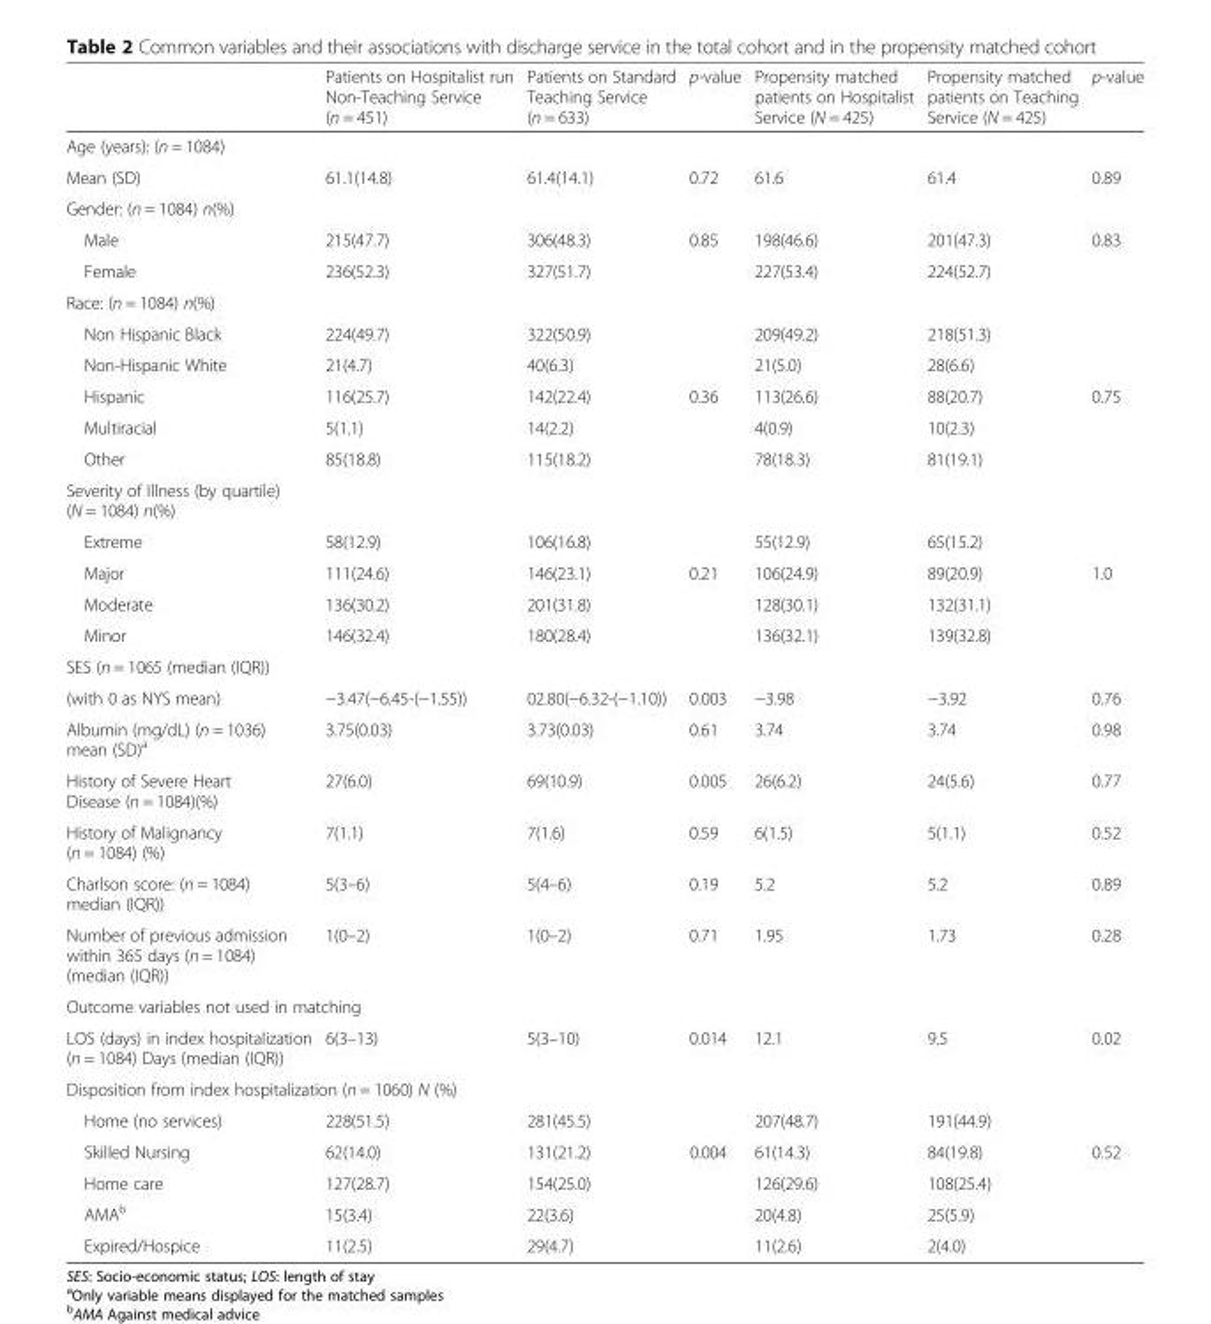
<table><thead><tr><td></td><td>Patients on Hospitalist run Non-Teaching Service (n = 451)</td><td>Patients on Standard Teaching Service (n = 633)</td><td>p-value</td><td>Propensity matched patients on Hospitalist Service (N = 425)</td><td>Propensity matched patients on Teaching Service (N = 425)</td><td>p-value</td></tr></thead><tbody><tr><td colspan="7">Age (years): (n = 1084)</td></tr><tr><td>Mean (SD)</td><td>61.1(14.8)</td><td>61.4(14.1)</td><td>0.72</td><td>61.6</td><td>61.4</td><td>0.89</td></tr><tr><td colspan="7">Gender: (n = 1084) n(%)</td></tr><tr><td>Male</td><td>215(47.7)</td><td>306(48.3)</td><td>0.85</td><td>198(46.6)</td><td>201(47.3)</td><td>0.83</td></tr><tr><td>Female</td><td>236(52.3)</td><td>327(51.7)</td><td></td><td>227(53.4)</td><td>224(52.7)</td><td></td></tr><tr><td colspan="7">Race: (n = 1084) n(%)</td></tr><tr><td>Non Hispanic Black</td><td>224(49.7)</td><td>322(50.9)</td><td></td><td>209(49.2)</td><td>218(51.3)</td><td></td></tr><tr><td>Non-Hispanic White</td><td>21(4.7)</td><td>40(6.3)</td><td></td><td>21(5.0)</td><td>28(6.6)</td><td></td></tr><tr><td>Hispanic</td><td>116(25.7)</td><td>142(22.4)</td><td>0.36</td><td>113(26.6)</td><td>88(20.7)</td><td>0.75</td></tr><tr><td>Multiracial</td><td>5(1.1)</td><td>14(2.2)</td><td></td><td>4(0.9)</td><td>10(2.3)</td><td></td></tr><tr><td>Other</td><td>85(18.8)</td><td>115(18.2)</td><td></td><td>78(18.3)</td><td>81(19.1)</td><td></td></tr><tr><td colspan="7">Severity of Illness (by quartile) (N = 1084) n(%)</td></tr><tr><td>Extreme</td><td>58(12.9)</td><td>106(16.8)</td><td></td><td>55(12.9)</td><td>65(15.2)</td><td></td></tr><tr><td>Major</td><td>111(24.6)</td><td>146(23.1)</td><td>0.21</td><td>106(24.9)</td><td>89(20.9)</td><td>1.0</td></tr><tr><td>Moderate</td><td>136(30.2)</td><td>201(31.8)</td><td></td><td>128(30.1)</td><td>132(31.1)</td><td></td></tr><tr><td>Minor</td><td>146(32.4)</td><td>180(28.4)</td><td></td><td>136(32.1)</td><td>139(32.8)</td><td></td></tr><tr><td colspan="7">SES (n = 1065 (median (IQR))</td></tr><tr><td>(with 0 as NYS mean)</td><td>−3.47(−6.45-(−1.55))</td><td>02.80(−6.32-(−1.10))</td><td>0.003</td><td>−3.98</td><td>−3.92</td><td>0.76</td></tr><tr><td>Albumin (mg/dL) (n = 1036) mean (SD)<sup>a</sup></td><td>3.75(0.03)</td><td>3.73(0.03)</td><td>0.61</td><td>3.74</td><td>3.74</td><td>0.98</td></tr><tr><td>History of Severe Heart Disease (n = 1084)(%)</td><td>27(6.0)</td><td>69(10.9)</td><td>0.005</td><td>26(6.2)</td><td>24(5.6)</td><td>0.77</td></tr><tr><td>History of Malignancy (n = 1084) (%)</td><td>7(1.1)</td><td>7(1.6)</td><td>0.59</td><td>6(1.5)</td><td>5(1.1)</td><td>0.52</td></tr><tr><td>Charlson score: (n = 1084) median (IQR))</td><td>5(3–6)</td><td>5(4–6)</td><td>0.19</td><td>5.2</td><td>5.2</td><td>0.89</td></tr><tr><td>Number of previous admission within 365 days (n = 1084) (median (IQR))</td><td>1(0–2)</td><td>1(0–2)</td><td>0.71</td><td>1.95</td><td>1.73</td><td>0.28</td></tr><tr><td colspan="7">Outcome variables not used in matching</td></tr><tr><td>LOS (days) in index hospitalization (n = 1084) Days (median (IQR))</td><td>6(3–13)</td><td>5(3–10)</td><td>0.014</td><td>12.1</td><td>9.5</td><td>0.02</td></tr><tr><td colspan="7">Disposition from index hospitalization (n = 1060) N (%)</td></tr><tr><td>Home (no services)</td><td>228(51.5)</td><td>281(45.5)</td><td></td><td>207(48.7)</td><td>191(44.9)</td><td></td></tr><tr><td>Skilled Nursing</td><td>62(14.0)</td><td>131(21.2)</td><td>0.004</td><td>61(14.3)</td><td>84(19.8)</td><td>0.52</td></tr><tr><td>Home care</td><td>127(28.7)</td><td>154(25.0)</td><td></td><td>126(29.6)</td><td>108(25.4)</td><td></td></tr><tr><td>AMA<sup>b</sup></td><td>15(3.4)</td><td>22(3.6)</td><td></td><td>20(4.8)</td><td>25(5.9)</td><td></td></tr><tr><td>Expired/Hospice</td><td>11(2.5)</td><td>29(4.7)</td><td></td><td>11(2.6)</td><td>2(4.0)</td><td></td></tr></tbody></table>